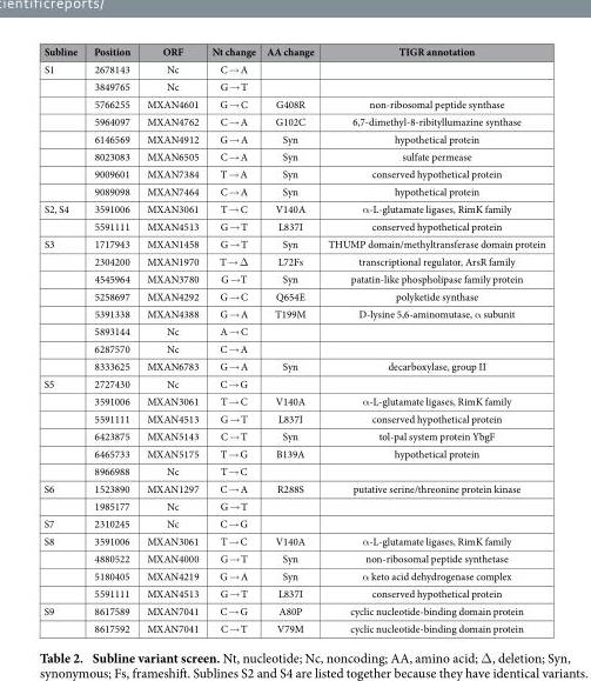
<table><thead><tr><td>Subline</td><td>Position</td><td>ORF</td><td>Nt change</td><td>AA change</td><td>TIGR annotation</td></tr></thead><tbody><tr><td rowspan="8">S1</td><td>2678143</td><td>Nc</td><td>C → A</td><td></td><td></td></tr><tr><td>3849765</td><td>Nc</td><td>G → T</td><td></td><td></td></tr><tr><td>5766255</td><td>MXAN4601</td><td>G → C</td><td>G408R</td><td>non-ribosomal peptide synthase</td></tr><tr><td>5964097</td><td>MXAN4762</td><td>C → A</td><td>G102C</td><td>6,7-dimethyl-8-ribityllumazine synthase</td></tr><tr><td>6146569</td><td>MXAN4912</td><td>G → A</td><td>Syn</td><td>hypothetical protein</td></tr><tr><td>8023083</td><td>MXAN6505</td><td>C → A</td><td>Syn</td><td>sulfate permease</td></tr><tr><td>9009601</td><td>MXAN7384</td><td>T → A</td><td>Syn</td><td>conserved hypothetical protein</td></tr><tr><td>9089098</td><td>MXAN7464</td><td>C → A</td><td>Syn</td><td>hypothetical protein</td></tr><tr><td rowspan="2">S2, S4</td><td>3591006</td><td>MXAN3061</td><td>T → C</td><td>V140A</td><td>α -L-glutamate ligases, RimK family</td></tr><tr><td>5591111</td><td>MXAN4513</td><td>G → T</td><td>L837I</td><td>conserved hypothetical protein</td></tr><tr><td rowspan="8">S3</td><td>1717943</td><td>MXAN1458</td><td>G → T</td><td>Syn</td><td>THUMP domain/methyltransferase domain protein</td></tr><tr><td>2304200</td><td>MXAN1970</td><td>T → Δ</td><td>L72Fs</td><td>transcriptional regulator, ArsR family</td></tr><tr><td>4545964</td><td>MXAN3780</td><td>G → T</td><td>Syn</td><td>patatin-like phospholipase family protein</td></tr><tr><td>5258697</td><td>MXAN4292</td><td>G → C</td><td>Q654E</td><td>polyketide synthase</td></tr><tr><td>5391338</td><td>MXAN4388</td><td>G → A</td><td>T199M</td><td>D-lysine 5,6-aminomutase, α subunit</td></tr><tr><td>5893144</td><td>Nc</td><td>A → C</td><td></td><td></td></tr><tr><td>6287570</td><td>Nc</td><td>C → A</td><td></td><td></td></tr><tr><td>8333625</td><td>MXAN6783</td><td>G → A</td><td>Syn</td><td>decarboxylase, group II</td></tr><tr><td rowspan="6">S5</td><td>2727430</td><td>Nc</td><td>C → G</td><td></td><td></td></tr><tr><td>3591006</td><td>MXAN3061</td><td>T → C</td><td>V140A</td><td>α -L-glutamate ligases, RimK family</td></tr><tr><td>5591111</td><td>MXAN4513</td><td>G → T</td><td>L837I</td><td>conserved hypothetical protein</td></tr><tr><td>6423875</td><td>MXAN5143</td><td>C → T</td><td>Syn</td><td>tol-pal system protein YbgF</td></tr><tr><td>6465733</td><td>MXAN5175</td><td>T → G</td><td>B139A</td><td>hypothetical protein</td></tr><tr><td>8966988</td><td>Nc</td><td>T → C</td><td></td><td></td></tr><tr><td rowspan="2">S6</td><td>1523890</td><td>MXAN1297</td><td>C → A</td><td>R288S</td><td>putative serine/threonine protein kinase</td></tr><tr><td>1985177</td><td>Nc</td><td>G → T</td><td></td><td></td></tr><tr><td>S7</td><td>2310245</td><td>Nc</td><td>C → G</td><td></td><td></td></tr><tr><td rowspan="4">S8</td><td>3591006</td><td>MXAN3061</td><td>T → C</td><td>V140A</td><td>α -L-glutamate ligases, RimK family</td></tr><tr><td>4880522</td><td>MXAN4000</td><td>G → T</td><td>Syn</td><td>non-ribosomal peptide synthetase</td></tr><tr><td>5180405</td><td>MXAN4219</td><td>G → A</td><td>Syn</td><td>α keto acid dehydrogenase complex</td></tr><tr><td>5591111</td><td>MXAN4513</td><td>G → T</td><td>L837I</td><td>conserved hypothetical protein</td></tr><tr><td rowspan="2">S9</td><td>8617589</td><td>MXAN7041</td><td>C → G</td><td>A80P</td><td>cyclic nucleotide-binding domain protein</td></tr><tr><td>8617592</td><td>MXAN7041</td><td>C → T</td><td>V79M</td><td>cyclic nucleotide-binding domain protein</td></tr></tbody></table>